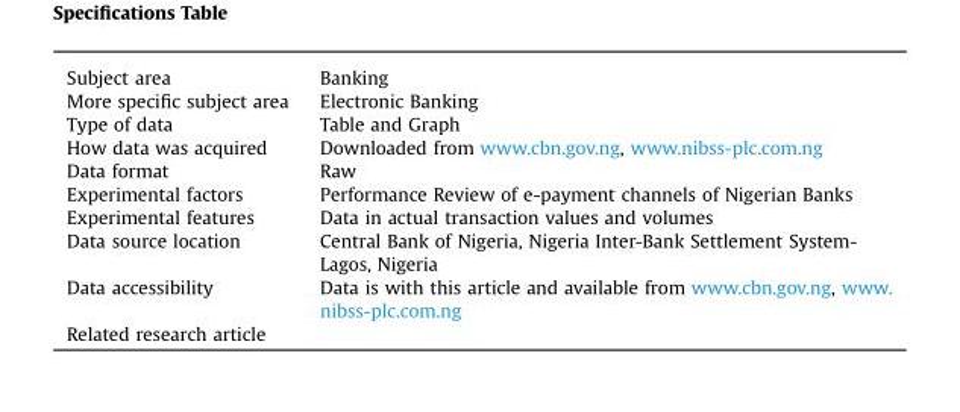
<table><tbody><tr><td>Subject area</td><td>Banking</td></tr><tr><td>More specific subject area</td><td>Electronic Banking</td></tr><tr><td>Type of data</td><td>Table and Graph</td></tr><tr><td>How data was acquired</td><td>Downloaded from www.cbn.gov.ng, www.nibss-plc.com.ng</td></tr><tr><td>Data format</td><td>Raw</td></tr><tr><td>Experimental factors</td><td>Performance Review of e-payment channels of Nigerian Banks</td></tr><tr><td>Experimental features</td><td>Data in actual transaction values and volumes</td></tr><tr><td>Data source location</td><td>Central Bank of Nigeria, Nigeria Inter-Bank Settlement System- Lagos, Nigeria</td></tr><tr><td>Data accessibility</td><td>Data is with this article and available from www.cbn.gov.ng, www. nibss-plc.com.ng</td></tr><tr><td>Related research article</td><td></td></tr></tbody></table>